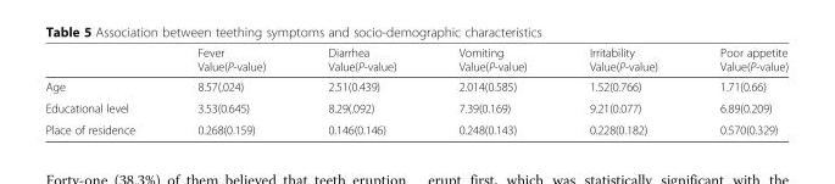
<table><thead><tr><td></td><td>Fever Value(P-value)</td><td>Diarrhea Value(P-value)</td><td>Vomiting Value(P-value)</td><td>Irritability Value(P-value)</td><td>Poor appetite Value(P-value)</td></tr></thead><tbody><tr><td>Age</td><td>8.57(.024)</td><td>2.51(0.439)</td><td>2.014(0.585)</td><td>1.52(0.766)</td><td>1.71(0.66)</td></tr><tr><td>Educational level</td><td>3.53(0.645)</td><td>8.29(.092)</td><td>7.39(0.169)</td><td>9.21(0.077)</td><td>6.89(0.209)</td></tr><tr><td>Place of residence</td><td>0.268(0.159)</td><td>0.146(0.146)</td><td>0.248(0.143)</td><td>0.228(0.182)</td><td>0.570(0.329)</td></tr></tbody></table>